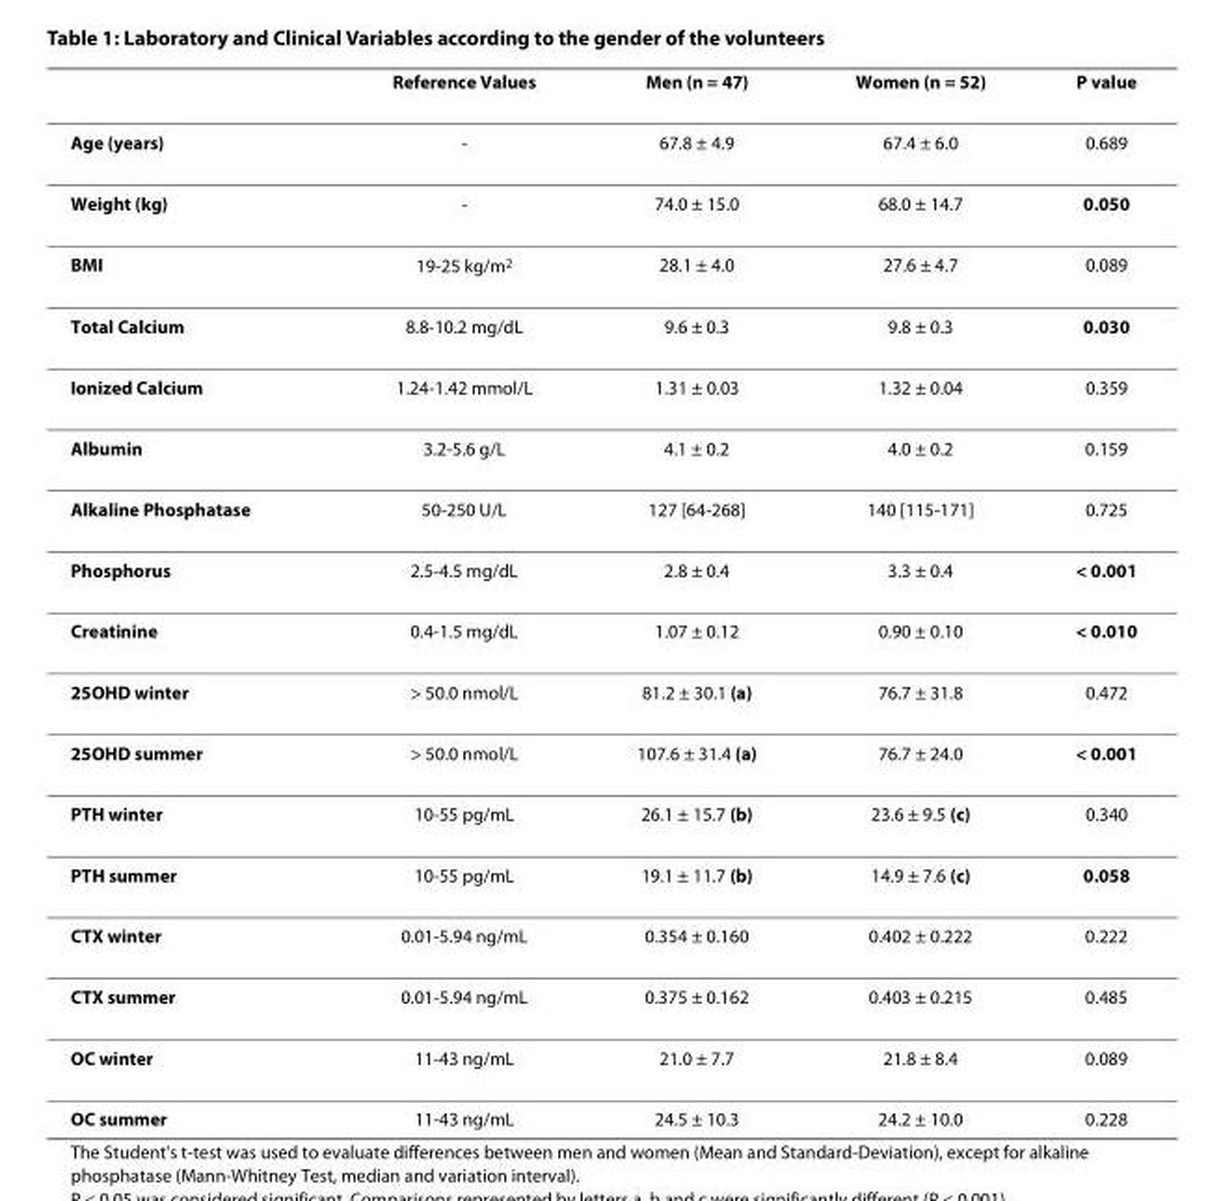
<table><thead><tr><td></td><td>Reference Values</td><td>Men (n = 47)</td><td>Women (n = 52)</td><td>P value</td></tr></thead><tbody><tr><td>Age (years)</td><td>-</td><td>67.8 ± 4.9</td><td>67.4 ± 6.0</td><td>0.689</td></tr><tr><td>Weight (kg)</td><td>-</td><td>74.0 ± 15.0</td><td>68.0 ± 14.7</td><td>0.050</td></tr><tr><td>BMI</td><td>19-25 kg/m<sup>2</sup></td><td>28.1 ± 4.0</td><td>27.6 ± 4.7</td><td>0.089</td></tr><tr><td>Total Calcium</td><td>8.8-10.2 mg/dL</td><td>9.6 ± 0.3</td><td>9.8 ± 0.3</td><td>0.030</td></tr><tr><td>Ionized Calcium</td><td>1.24-1.42 mmol/L</td><td>1.31 ± 0.03</td><td>1.32 ± 0.04</td><td>0.359</td></tr><tr><td>Albumin</td><td>3.2-5.6 g/L</td><td>4.1 ± 0.2</td><td>4.0 ± 0.2</td><td>0.159</td></tr><tr><td>Alkaline Phosphatase</td><td>50-250 U/L</td><td>127 [64-268]</td><td>140 [115-171]</td><td>0.725</td></tr><tr><td>Phosphorus</td><td>2.5-4.5 mg/dL</td><td>2.8 ± 0.4</td><td>3.3 ± 0.4</td><td>&lt; 0.001</td></tr><tr><td>Creatinine</td><td>0.4-1.5 mg/dL</td><td>1.07 ± 0.12</td><td>0.90 ± 0.10</td><td>&lt; 0.010</td></tr><tr><td>25OHD winter</td><td>&gt; 50.0 nmol/L</td><td>81.2 ± 30.1 (a)</td><td>76.7 ± 31.8</td><td>0.472</td></tr><tr><td>25OHD summer</td><td>&gt; 50.0 nmol/L</td><td>107.6 ± 31.4 (a)</td><td>76.7 ± 24.0</td><td>&lt; 0.001</td></tr><tr><td>PTH winter</td><td>10-55 pg/mL</td><td>26.1 ± 15.7 (b)</td><td>23.6 ± 9.5 (c)</td><td>0.340</td></tr><tr><td>PTH summer</td><td>10-55 pg/mL</td><td>19.1 ± 11.7 (b)</td><td>14.9 ± 7.6 (c)</td><td>0.058</td></tr><tr><td>CTX winter</td><td>0.01-5.94 ng/mL</td><td>0.354 ± 0.160</td><td>0.402 ± 0.222</td><td>0.222</td></tr><tr><td>CTX summer</td><td>0.01-5.94 ng/mL</td><td>0.375 ± 0.162</td><td>0.403 ± 0.215</td><td>0.485</td></tr><tr><td>OC winter</td><td>11-43 ng/mL</td><td>21.0 ± 7.7</td><td>21.8 ± 8.4</td><td>0.089</td></tr><tr><td>OC summer</td><td>11-43 ng/mL</td><td>24.5 ± 10.3</td><td>24.2 ± 10.0</td><td>0.228</td></tr></tbody></table>